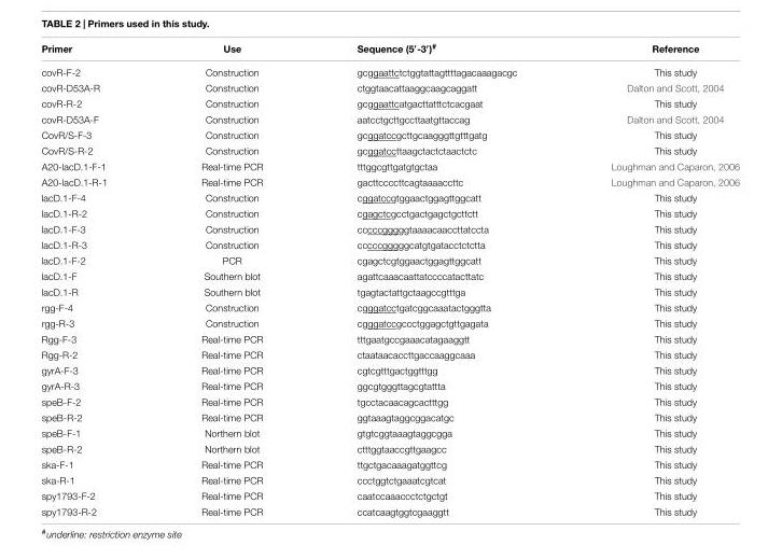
<table><thead><tr><td>Primer</td><td>Use</td><td>Sequence (5′-3′)<sup>#</sup></td><td>Reference</td></tr></thead><tbody><tr><td>covR-F-2</td><td>Construction</td><td>gcggaattctctggtattagttttagacaaagacgc</td><td>This study</td></tr><tr><td>covR-D53A-R</td><td>Construction</td><td>ctggtaacattaaggcaagcaggatt</td><td>Dalton and Scott, 2004</td></tr><tr><td>covR-R-2</td><td>Construction</td><td>gcggaattcatgacttatttctcacgaat</td><td>This study</td></tr><tr><td>covR-D53A-F</td><td>Construction</td><td>aatcctgcttgccttaatgttaccag</td><td>Dalton and Scott, 2004</td></tr><tr><td>CovR/S-F-3</td><td>Construction</td><td>gcggatccgcttgcaagggttgtttgatg</td><td>This study</td></tr><tr><td>CovR/S-R-2</td><td>Construction</td><td>gcggatccttaagctactctaactctc</td><td>This study</td></tr><tr><td>A20-lacD.1-F-1</td><td>Real-time PCR</td><td>tttggcgttgatgtgctaa</td><td>Loughman and Caparon, 2006</td></tr><tr><td>A20-lacD.1-R-1</td><td>Real-time PCR</td><td>gacttccccttcagtaaaaccttc</td><td>Loughman and Caparon, 2006</td></tr><tr><td>lacD.1-F-4</td><td>Construction</td><td>cggatccgtggaactggagttggcatt</td><td>This study</td></tr><tr><td>lacD.1-R-2</td><td>Construction</td><td>cgagctcgcctgactgagctgcttctt</td><td>This study</td></tr><tr><td>lacD.1-F-3</td><td>Construction</td><td>cccccgggggtaaaacaaccttatccta</td><td>This study</td></tr><tr><td>lacD.1-R-3</td><td>Construction</td><td>cccccgggggcatgtgatacctctctta</td><td>This study</td></tr><tr><td>lacD.1-F-2</td><td>PCR</td><td>cgagctcgtggaactggagttggcatt</td><td>This study</td></tr><tr><td>lacD.1-F</td><td>Southern blot</td><td>agattcaaacaattatccccatacttatc</td><td>This study</td></tr><tr><td>lacD.1-R</td><td>Southern blot</td><td>tgagtactattgctaagccgtttga</td><td>This study</td></tr><tr><td>rgg-F-4</td><td>Construction</td><td>cgggatcctgatcggcaaatactgggtta</td><td>This study</td></tr><tr><td>rgg-R-3</td><td>Construction</td><td>cgggatccgccctggagctgttgagata</td><td>This study</td></tr><tr><td>Rgg-F-3</td><td>Real-time PCR</td><td>tttgaatgccgaaacatagaaggtt</td><td>This study</td></tr><tr><td>Rgg-R-2</td><td>Real-time PCR</td><td>ctaataacaccttgaccaaggcaaa</td><td>This study</td></tr><tr><td>gyrA-F-3</td><td>Real-time PCR</td><td>cgtcgtttgactggtttgg</td><td>This study</td></tr><tr><td>gyrA-R-3</td><td>Real-time PCR</td><td>ggcgtgggttagcgtattta</td><td>This study</td></tr><tr><td>speB-F-2</td><td>Real-time PCR</td><td>tgcctacaacagcactttgg</td><td>This study</td></tr><tr><td>speB-R-2</td><td>Real-time PCR</td><td>ggtaaagtaggcggacatgc</td><td>This study</td></tr><tr><td>speB-F-1</td><td>Northern blot</td><td>gtgtcggtaaagtaggcgga</td><td>This study</td></tr><tr><td>speB-R-2</td><td>Northern blot</td><td>ctttggtaaccgttgaagcc</td><td>This study</td></tr><tr><td>ska-F-1</td><td>Real-time PCR</td><td>ttgctgacaaagatggttcg</td><td>This study</td></tr><tr><td>ska-R-1</td><td>Real-time PCR</td><td>ccctggtctgaaatcgtcat</td><td>This study</td></tr><tr><td>spy1793-F-2</td><td>Real-time PCR</td><td>caatccaaaccctctgctgt</td><td>This study</td></tr><tr><td>spy1793-R-2</td><td>Real-time PCR</td><td>ccatcaagtggtcgaaggtt</td><td>This study</td></tr></tbody></table>